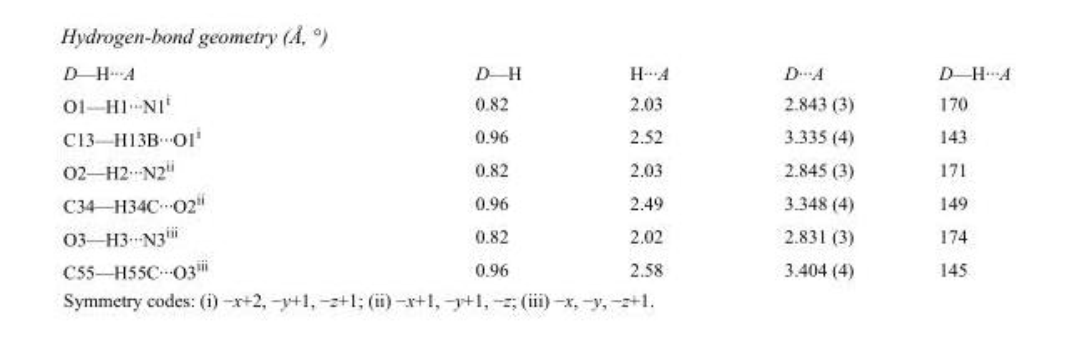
<table><tbody><tr><td>D—H···A</td><td>D—H</td><td>H···A</td><td>D···A</td><td>D—H···A</td></tr><tr><td>O1—H1···N1<sup>i</sup></td><td>0.82</td><td>2.03</td><td>2.843 (3)</td><td>170</td></tr><tr><td>C13—H13B···O1<sup>i</sup></td><td>0.96</td><td>2.52</td><td>3.335 (4)</td><td>143</td></tr><tr><td>O2—H2···N2<sup>ii</sup></td><td>0.82</td><td>2.03</td><td>2.845 (3)</td><td>171</td></tr><tr><td>C34—H34C···O2<sup>ii</sup></td><td>0.96</td><td>2.49</td><td>3.348 (4)</td><td>149</td></tr><tr><td>O3—H3···N3<sup>iii</sup></td><td>0.82</td><td>2.02</td><td>2.831 (3)</td><td>174</td></tr><tr><td>C55—H55C···O3<sup>iii</sup></td><td>0.96</td><td>2.58</td><td>3.404 (4)</td><td>145</td></tr></tbody></table>